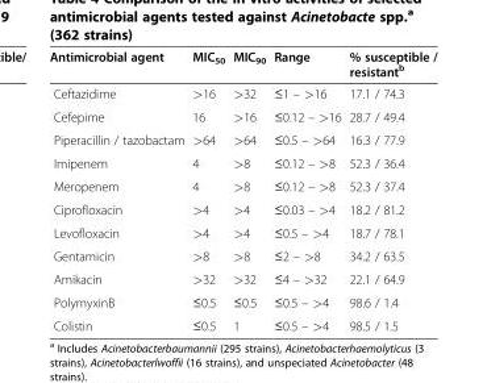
<table><thead><tr><td>Antimicrobial agent</td><td>MIC<sub>50</sub></td><td>MIC<sub>90</sub></td><td>Range</td><td>% susceptible / resistant<sup>b</sup></td></tr></thead><tbody><tr><td>Ceftazidime</td><td>&gt;16</td><td>&gt;32</td><td>≤1 – &gt;16</td><td>17.1 / 74.3</td></tr><tr><td>Cefepime</td><td>16</td><td>&gt;16</td><td>≤0.12 – &gt;16</td><td>28.7 / 49.4</td></tr><tr><td>Piperacillin / tazobactam</td><td>&gt;64</td><td>&gt;64</td><td>≤0.5 – &gt;64</td><td>16.3 / 77.9</td></tr><tr><td>Imipenem</td><td>4</td><td>&gt;8</td><td>≤0.12 – &gt;8</td><td>52.3 / 36.4</td></tr><tr><td>Meropenem</td><td>4</td><td>&gt;8</td><td>≤0.12 – &gt;8</td><td>52.3 / 37.4</td></tr><tr><td>Ciprofloxacin</td><td>&gt;4</td><td>&gt;4</td><td>≤0.03 – &gt;4</td><td>18.2 / 81.2</td></tr><tr><td>Levofloxacin</td><td>&gt;4</td><td>&gt;4</td><td>≤0.5 – &gt;4</td><td>18.7 / 78.1</td></tr><tr><td>Gentamicin</td><td>&gt;8</td><td>&gt;8</td><td>≤2 – &gt;8</td><td>34.2 / 63.5</td></tr><tr><td>Amikacin</td><td>&gt;32</td><td>&gt;32</td><td>≤4 – &gt;32</td><td>22.1 / 64.9</td></tr><tr><td>PolymyxinB</td><td>≤0.5</td><td>≤0.5</td><td>≤0.5 – &gt;4</td><td>98.6 / 1.4</td></tr><tr><td>Colistin</td><td>≤0.5</td><td>1</td><td>≤0.5 – &gt;4</td><td>98.5 / 1.5</td></tr></tbody></table>